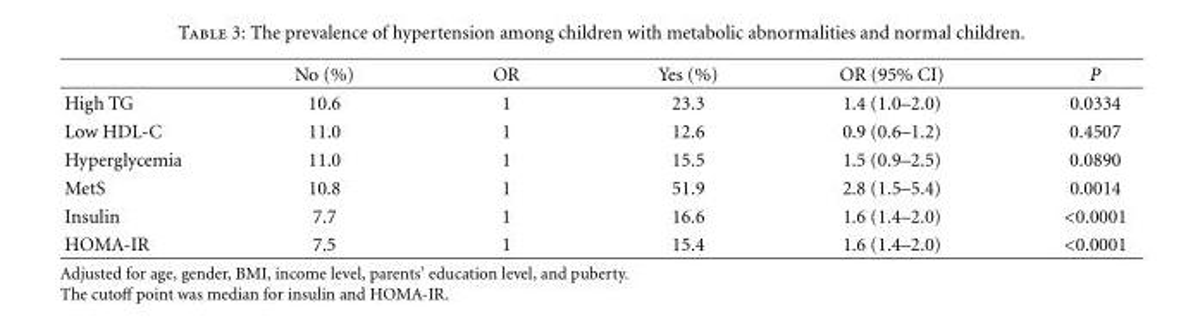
<table><thead><tr><td></td><td>No (%)</td><td>OR</td><td>Yes (%)</td><td>OR (95% CI)</td><td>P</td></tr></thead><tbody><tr><td>High TG</td><td>10.6</td><td>1</td><td>23.3</td><td>1.4 (1.0–2.0)</td><td>0.0334</td></tr><tr><td>Low HDL-C</td><td>11.0</td><td>1</td><td>12.6</td><td>0.9 (0.6–1.2)</td><td>0.4507</td></tr><tr><td>Hyperglycemia</td><td>11.0</td><td>1</td><td>15.5</td><td>1.5 (0.9–2.5)</td><td>0.0890</td></tr><tr><td>MetS</td><td>10.8</td><td>1</td><td>51.9</td><td>2.8 (1.5–5.4)</td><td>0.0014</td></tr><tr><td>Insulin</td><td>7.7</td><td>1</td><td>16.6</td><td>1.6 (1.4–2.0)</td><td>&lt;0.0001</td></tr><tr><td>HOMA-IR</td><td>7.5</td><td>1</td><td>15.4</td><td>1.6 (1.4–2.0)</td><td>&lt;0.0001</td></tr></tbody></table>